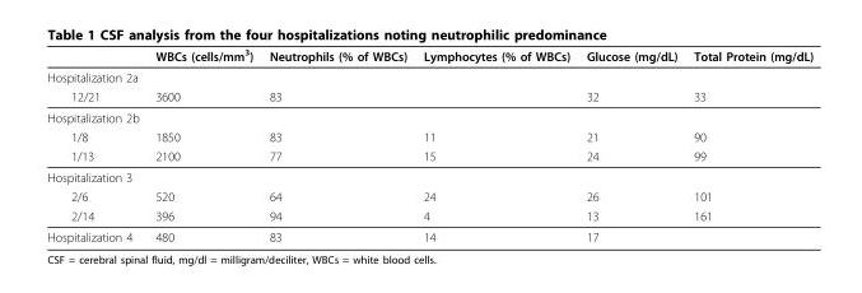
<table><thead><tr><td></td><td>WBCs (cells/mm<sup>3</sup>)</td><td>Neutrophils (% of WBCs)</td><td>Lymphocytes (% of WBCs)</td><td>Glucose (mg/dL)</td><td>Total Protein (mg/dL)</td></tr></thead><tbody><tr><td colspan="6">Hospitalization 2a</td></tr><tr><td>12/21</td><td>3600</td><td>83</td><td></td><td>32</td><td>33</td></tr><tr><td colspan="6">Hospitalization 2b</td></tr><tr><td>1/8</td><td>1850</td><td>83</td><td>11</td><td>21</td><td>90</td></tr><tr><td>1/13</td><td>2100</td><td>77</td><td>15</td><td>24</td><td>99</td></tr><tr><td colspan="6">Hospitalization 3</td></tr><tr><td>2/6</td><td>520</td><td>64</td><td>24</td><td>26</td><td>101</td></tr><tr><td>2/14</td><td>396</td><td>94</td><td>4</td><td>13</td><td>161</td></tr><tr><td>Hospitalization 4</td><td>480</td><td>83</td><td>14</td><td>17</td><td></td></tr></tbody></table>